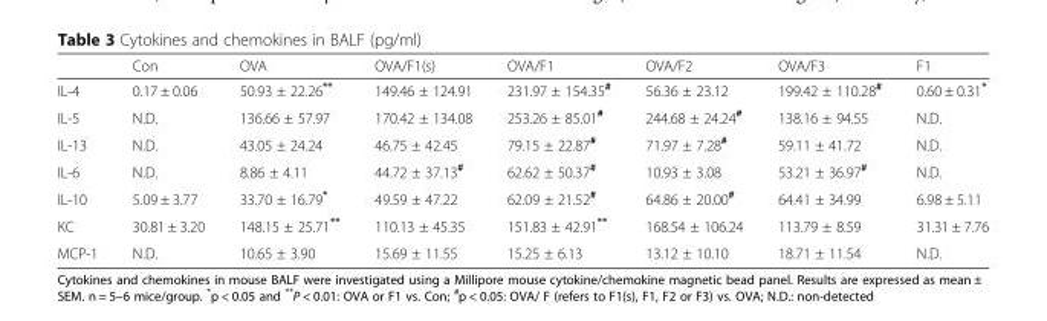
<table><thead><tr><td></td><td>Con</td><td>OVA</td><td>OVA/F1(s)</td><td>OVA/F1</td><td>OVA/F2</td><td>OVA/F3</td><td>F1</td></tr></thead><tbody><tr><td>IL-4</td><td>0.17 ± 0.06</td><td>50.93 ± 22.26**</td><td>149.46 ± 124.91</td><td>231.97 ± 154.35<sup>#</sup></td><td>56.36 ± 23.12</td><td>199.42 ± 110.28<sup>#</sup></td><td>0.60 ± 0.31*</td></tr><tr><td>IL-5</td><td>N.D.</td><td>136.66 ± 57.97</td><td>170.42 ± 134.08</td><td>253.26 ± 85.01<sup>#</sup></td><td>244.68 ± 24.24<sup>#</sup></td><td>138.16 ± 94.55</td><td>N.D.</td></tr><tr><td>IL-13</td><td>N.D.</td><td>43.05 ± 24.24</td><td>46.75 ± 42.45</td><td>79.15 ± 22.87<sup>#</sup></td><td>71.97 ± 7.28<sup>#</sup></td><td>59.11 ± 41.72</td><td>N.D.</td></tr><tr><td>IL-6</td><td>N.D.</td><td>8.86 ± 4.11</td><td>44.72 ± 37.13<sup>#</sup></td><td>62.62 ± 50.37<sup>#</sup></td><td>10.93 ± 3.08</td><td>53.21 ± 36.97<sup>#</sup></td><td>N.D.</td></tr><tr><td>IL-10</td><td>5.09 ± 3.77</td><td>33.70 ± 16.79*</td><td>49.59 ± 47.22</td><td>62.09 ± 21.52<sup>#</sup></td><td>64.86 ± 20.00<sup>#</sup></td><td>64.41 ± 34.99</td><td>6.98 ± 5.11</td></tr><tr><td>KC</td><td>30.81 ± 3.20</td><td>148.15 ± 25.71**</td><td>110.13 ± 45.35</td><td>151.83 ± 42.91**</td><td>168.54 ± 106.24</td><td>113.79 ± 8.59</td><td>31.31 ± 7.76</td></tr><tr><td>MCP-1</td><td>N.D.</td><td>10.65 ± 3.90</td><td>15.69 ± 11.55</td><td>15.25 ± 6.13</td><td>13.12 ± 10.10</td><td>18.71 ± 11.54</td><td>N.D.</td></tr></tbody></table>